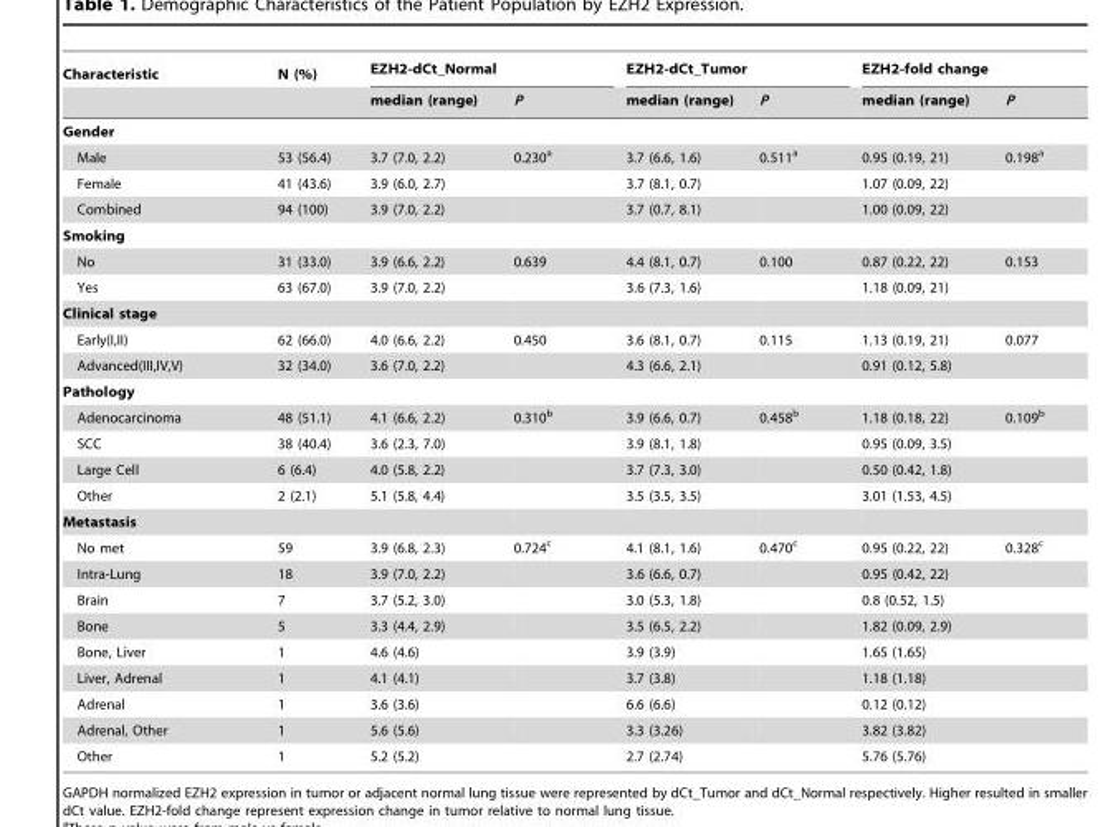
<table><thead><tr><td rowspan="2">Characteristic</td><td rowspan="2">N (%)</td><td colspan="2">EZH2-dCt_Normal</td><td colspan="2">EZH2-dCt_Tumor</td><td colspan="2">EZH2-fold change</td></tr><tr><td>median (range)</td><td>P</td><td>median (range)</td><td>P</td><td>median (range)</td><td>P</td></tr></thead><tbody><tr><td colspan="8">Gender</td></tr><tr><td>Male</td><td>53 (56.4)</td><td>3.7 (7.0, 2.2)</td><td>0.230<sup>a</sup></td><td>3.7 (6.6, 1.6)</td><td>0.511<sup>a</sup></td><td>0.95 (0.19, 21)</td><td>0.198<sup>a</sup></td></tr><tr><td>Female</td><td>41 (43.6)</td><td>3.9 (6.0, 2.7)</td><td></td><td>3.7 (8.1, 0.7)</td><td></td><td>1.07 (0.09, 22)</td><td></td></tr><tr><td>Combined</td><td>94 (100)</td><td>3.9 (7.0, 2.2)</td><td></td><td>3.7 (0.7, 8.1)</td><td></td><td>1.00 (0.09, 22)</td><td></td></tr><tr><td colspan="8">Smoking</td></tr><tr><td>No</td><td>31 (33.0)</td><td>3.9 (6.6, 2.2)</td><td>0.639</td><td>4.4 (8.1, 0.7)</td><td>0.100</td><td>0.87 (0.22, 22)</td><td>0.153</td></tr><tr><td>Yes</td><td>63 (67.0)</td><td>3.9 (7.0, 2.2)</td><td></td><td>3.6 (7.3, 1.6)</td><td></td><td>1.18 (0.09, 21)</td><td></td></tr><tr><td colspan="8">Clinical stage</td></tr><tr><td>Early(I,II)</td><td>62 (66.0)</td><td>4.0 (6.6, 2.2)</td><td>0.450</td><td>3.6 (8.1, 0.7)</td><td>0.115</td><td>1.13 (0.19, 21)</td><td>0.077</td></tr><tr><td>Advanced(III,IV,V)</td><td>32 (34.0)</td><td>3.6 (7.0, 2.2)</td><td></td><td>4.3 (6.6, 2.1)</td><td></td><td>0.91 (0.12, 5.8)</td><td></td></tr><tr><td colspan="8">Pathology</td></tr><tr><td>Adenocarcinoma</td><td>48 (51.1)</td><td>4.1 (6.6, 2.2)</td><td>0.310<sup>b</sup></td><td>3.9 (6.6, 0.7)</td><td>0.458<sup>b</sup></td><td>1.18 (0.18, 22)</td><td>0.109<sup>b</sup></td></tr><tr><td>SCC</td><td>38 (40.4)</td><td>3.6 (2.3, 7.0)</td><td></td><td>3.9 (8.1, 1.8)</td><td></td><td>0.95 (0.09, 3.5)</td><td></td></tr><tr><td>Large Cell</td><td>6 (6.4)</td><td>4.0 (5.8, 2.2)</td><td></td><td>3.7 (7.3, 3.0)</td><td></td><td>0.50 (0.42, 1.8)</td><td></td></tr><tr><td>Other</td><td>2 (2.1)</td><td>5.1 (5.8, 4.4)</td><td></td><td>3.5 (3.5, 3.5)</td><td></td><td>3.01 (1.53, 4.5)</td><td></td></tr><tr><td colspan="8">Metastasis</td></tr><tr><td>No met</td><td>59</td><td>3.9 (6.8, 2.3)</td><td>0.724<sup>c</sup></td><td>4.1 (8.1, 1.6)</td><td>0.470<sup>c</sup></td><td>0.95 (0.22, 22)</td><td>0.328<sup>c</sup></td></tr><tr><td>Intra-Lung</td><td>18</td><td>3.9 (7.0, 2.2)</td><td></td><td>3.6 (6.6, 0.7)</td><td></td><td>0.95 (0.42, 22)</td><td></td></tr><tr><td>Brain</td><td>7</td><td>3.7 (5.2, 3.0)</td><td></td><td>3.0 (5.3, 1.8)</td><td></td><td>0.8 (0.52, 1.5)</td><td></td></tr><tr><td>Bone</td><td>5</td><td>3.3 (4.4, 2.9)</td><td></td><td>3.5 (6.5, 2.2)</td><td></td><td>1.82 (0.09, 2.9)</td><td></td></tr><tr><td>Bone, Liver</td><td>1</td><td>4.6 (4.6)</td><td></td><td>3.9 (3.9)</td><td></td><td>1.65 (1.65)</td><td></td></tr><tr><td>Liver, Adrenal</td><td>1</td><td>4.1 (4.1)</td><td></td><td>3.7 (3.8)</td><td></td><td>1.18 (1.18)</td><td></td></tr><tr><td>Adrenal</td><td>1</td><td>3.6 (3.6)</td><td></td><td>6.6 (6.6)</td><td></td><td>0.12 (0.12)</td><td></td></tr><tr><td>Adrenal, Other</td><td>1</td><td>5.6 (5.6)</td><td></td><td>3.3 (3.26)</td><td></td><td>3.82 (3.82)</td><td></td></tr><tr><td>Other</td><td>1</td><td>5.2 (5.2)</td><td></td><td>2.7 (2.74)</td><td></td><td>5.76 (5.76)</td><td></td></tr></tbody></table>